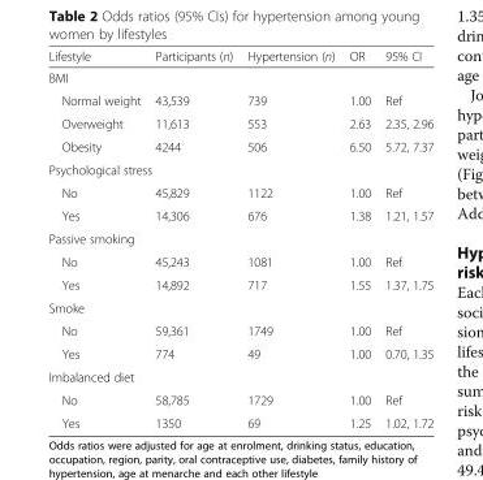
<table><thead><tr><td>Lifestyle</td><td>Participants (n)</td><td>Hypertension (n)</td><td>OR</td><td>95% CI</td></tr></thead><tbody><tr><td colspan="5">BMI</td></tr><tr><td>Normal weight</td><td>43,539</td><td>739</td><td>1.00</td><td>Ref</td></tr><tr><td>Overweight</td><td>11,613</td><td>553</td><td>2.63</td><td>2.35, 2.96</td></tr><tr><td>Obesity</td><td>4244</td><td>506</td><td>6.50</td><td>5.72, 7.37</td></tr><tr><td colspan="5">Psychological stress</td></tr><tr><td>No</td><td>45,829</td><td>1122</td><td>1.00</td><td>Ref</td></tr><tr><td>Yes</td><td>14,306</td><td>676</td><td>1.38</td><td>1.21, 1.57</td></tr><tr><td colspan="5">Passive smoking</td></tr><tr><td>No</td><td>45,243</td><td>1081</td><td>1.00</td><td>Ref</td></tr><tr><td>Yes</td><td>14,892</td><td>717</td><td>1.55</td><td>1.37, 1.75</td></tr><tr><td colspan="5">Smoke</td></tr><tr><td>No</td><td>59,361</td><td>1749</td><td>1.00</td><td>Ref</td></tr><tr><td>Yes</td><td>774</td><td>49</td><td>1.00</td><td>0.70, 1.35</td></tr><tr><td colspan="5">Imbalanced diet</td></tr><tr><td>No</td><td>58,785</td><td>1729</td><td>1.00</td><td>Ref</td></tr><tr><td>Yes</td><td>1350</td><td>69</td><td>1.25</td><td>1.02, 1.72</td></tr></tbody></table>